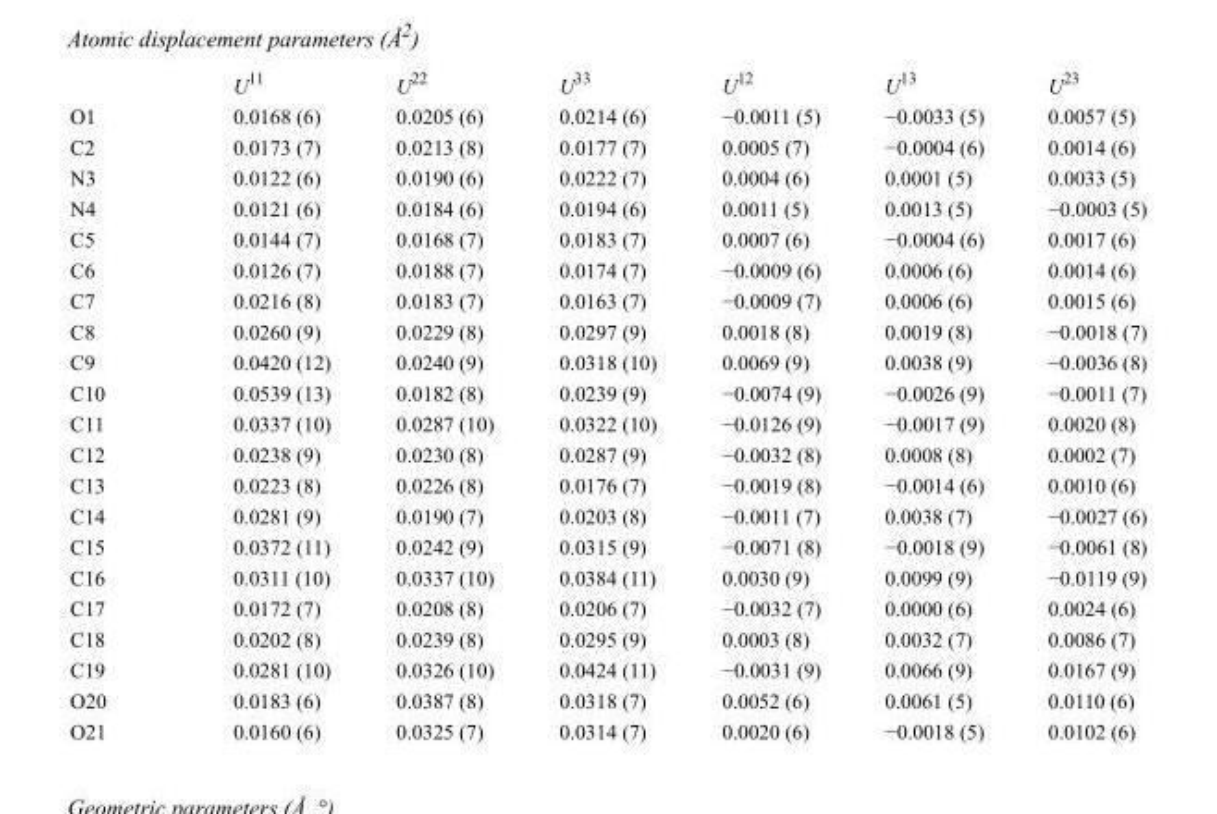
<table><thead><tr><td></td><td>U<sup>11</sup></td><td>U<sup>22</sup></td><td>U<sup>33</sup></td><td>U<sup>12</sup></td><td>U<sup>13</sup></td><td>U<sup>23</sup></td></tr></thead><tbody><tr><td>O1</td><td>0.0168 (6)</td><td>0.0205 (6)</td><td>0.0214 (6)</td><td>−0.0011 (5)</td><td>−0.0033 (5)</td><td>0.0057 (5)</td></tr><tr><td>C2</td><td>0.0173 (7)</td><td>0.0213 (8)</td><td>0.0177 (7)</td><td>0.0005 (7)</td><td>−0.0004 (6)</td><td>0.0014 (6)</td></tr><tr><td>N3</td><td>0.0122 (6)</td><td>0.0190 (6)</td><td>0.0222 (7)</td><td>0.0004 (6)</td><td>0.0001 (5)</td><td>0.0033 (5)</td></tr><tr><td>N4</td><td>0.0121 (6)</td><td>0.0184 (6)</td><td>0.0194 (6)</td><td>0.0011 (5)</td><td>0.0013 (5)</td><td>−0.0003 (5)</td></tr><tr><td>C5</td><td>0.0144 (7)</td><td>0.0168 (7)</td><td>0.0183 (7)</td><td>0.0007 (6)</td><td>−0.0004 (6)</td><td>0.0017 (6)</td></tr><tr><td>C6</td><td>0.0126 (7)</td><td>0.0188 (7)</td><td>0.0174 (7)</td><td>−0.0009 (6)</td><td>0.0006 (6)</td><td>0.0014 (6)</td></tr><tr><td>C7</td><td>0.0216 (8)</td><td>0.0183 (7)</td><td>0.0163 (7)</td><td>−0.0009 (7)</td><td>0.0006 (6)</td><td>0.0015 (6)</td></tr><tr><td>C8</td><td>0.0260 (9)</td><td>0.0229 (8)</td><td>0.0297 (9)</td><td>0.0018 (8)</td><td>0.0019 (8)</td><td>−0.0018 (7)</td></tr><tr><td>C9</td><td>0.0420 (12)</td><td>0.0240 (9)</td><td>0.0318 (10)</td><td>0.0069 (9)</td><td>0.0038 (9)</td><td>−0.0036 (8)</td></tr><tr><td>C10</td><td>0.0539 (13)</td><td>0.0182 (8)</td><td>0.0239 (9)</td><td>−0.0074 (9)</td><td>−0.0026 (9)</td><td>−0.0011 (7)</td></tr><tr><td>C11</td><td>0.0337 (10)</td><td>0.0287 (10)</td><td>0.0322 (10)</td><td>−0.0126 (9)</td><td>−0.0017 (9)</td><td>0.0020 (8)</td></tr><tr><td>C12</td><td>0.0238 (9)</td><td>0.0230 (8)</td><td>0.0287 (9)</td><td>−0.0032 (8)</td><td>0.0008 (8)</td><td>0.0002 (7)</td></tr><tr><td>C13</td><td>0.0223 (8)</td><td>0.0226 (8)</td><td>0.0176 (7)</td><td>−0.0019 (8)</td><td>−0.0014 (6)</td><td>0.0010 (6)</td></tr><tr><td>C14</td><td>0.0281 (9)</td><td>0.0190 (7)</td><td>0.0203 (8)</td><td>−0.0011 (7)</td><td>0.0038 (7)</td><td>−0.0027 (6)</td></tr><tr><td>C15</td><td>0.0372 (11)</td><td>0.0242 (9)</td><td>0.0315 (9)</td><td>−0.0071 (8)</td><td>−0.0018 (9)</td><td>−0.0061 (8)</td></tr><tr><td>C16</td><td>0.0311 (10)</td><td>0.0337 (10)</td><td>0.0384 (11)</td><td>0.0030 (9)</td><td>0.0099 (9)</td><td>−0.0119 (9)</td></tr><tr><td>C17</td><td>0.0172 (7)</td><td>0.0208 (8)</td><td>0.0206 (7)</td><td>−0.0032 (7)</td><td>0.0000 (6)</td><td>0.0024 (6)</td></tr><tr><td>C18</td><td>0.0202 (8)</td><td>0.0239 (8)</td><td>0.0295 (9)</td><td>0.0003 (8)</td><td>0.0032 (7)</td><td>0.0086 (7)</td></tr><tr><td>C19</td><td>0.0281 (10)</td><td>0.0326 (10)</td><td>0.0424 (11)</td><td>−0.0031 (9)</td><td>0.0066 (9)</td><td>0.0167 (9)</td></tr><tr><td>O20</td><td>0.0183 (6)</td><td>0.0387 (8)</td><td>0.0318 (7)</td><td>0.0052 (6)</td><td>0.0061 (5)</td><td>0.0110 (6)</td></tr><tr><td>O21</td><td>0.0160 (6)</td><td>0.0325 (7)</td><td>0.0314 (7)</td><td>0.0020 (6)</td><td>−0.0018 (5)</td><td>0.0102 (6)</td></tr></tbody></table>